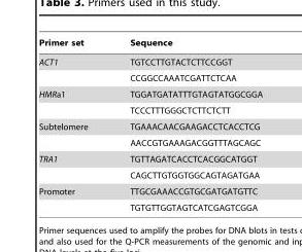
<table><thead><tr><td>Primer set</td><td>Sequence</td></tr></thead><tbody><tr><td rowspan="2">ACT1</td><td>TGTCCTTGTACTCTTCCGGT</td></tr><tr><td>CCGGCCAAATCGATTCTCAA</td></tr><tr><td rowspan="2">HMRa1</td><td>TGGATGATATTTGTAGTATGGCGGA</td></tr><tr><td>TCCCTTTGGGCTCTTCTCTT</td></tr><tr><td rowspan="2">Subtelomere</td><td>TGAAACAACGAAGACCTCACCTCG</td></tr><tr><td>AACCGTGAAAGACGGTTTAGCAGC</td></tr><tr><td rowspan="2">TRA1</td><td>TGTTAGATCACCTCACGGCATGGT</td></tr><tr><td>CAGCTTGTGGTGGCAGTAGATGAA</td></tr><tr><td rowspan="2">Promoter</td><td>TTGCGAAACCGTGCGATGATGTTC</td></tr><tr><td>TGTGTTGGTAGTCATCGAGTCGGA</td></tr></tbody></table>